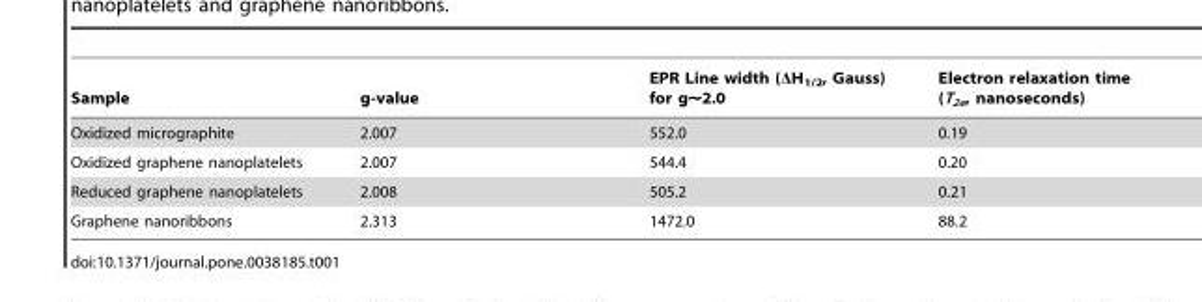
<table><thead><tr><td>Sample</td><td>g-value</td><td>EPR Line width (ΔH<sub>1/2</sub>, Gauss) for g∼2.0</td><td>Electron relaxation time (T<sub>2e</sub>, nanoseconds)</td></tr></thead><tbody><tr><td>Oxidized micrographite</td><td>2.007</td><td>552.0</td><td>0.19</td></tr><tr><td>Oxidized graphene nanoplatelets</td><td>2.007</td><td>544.4</td><td>0.20</td></tr><tr><td>Reduced graphene nanoplatelets</td><td>2.008</td><td>505.2</td><td>0.21</td></tr><tr><td>Graphene nanoribbons</td><td>2.313</td><td>1472.0</td><td>88.2</td></tr></tbody></table>